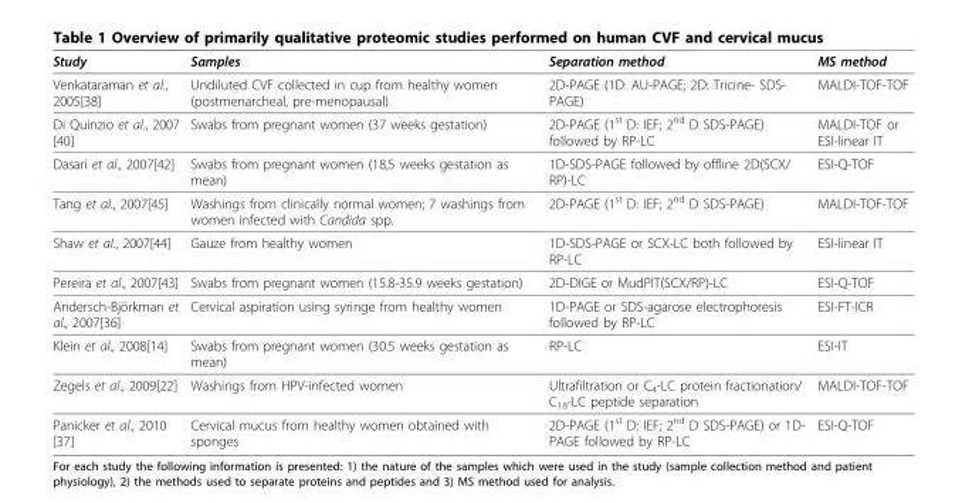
<table><thead><tr><td>Study</td><td>Samples</td><td>Separation method</td><td>MS method</td></tr></thead><tbody><tr><td>Venkataraman et al., 2005[38]</td><td>Undiluted CVF collected in cup from healthy women (postmenarcheal, pre-menopausal)</td><td>2D-PAGE (1D: AU-PAGE; 2D: Tricine- SDS- PAGE)</td><td>MALDI-TOF-TOF</td></tr><tr><td>Di Quinzio et al., 2007 [40]</td><td>Swabs from pregnant women (37 weeks gestation)</td><td>2D-PAGE (1<sup>st</sup> D: IEF; 2<sup>nd</sup> D SDS-PAGE) followed by RP-LC</td><td>MALDI-TOF or ESI-linear IT</td></tr><tr><td>Dasari et al., 2007[42]</td><td>Swabs from pregnant women (18,5 weeks gestation as mean)</td><td>1D-SDS-PAGE followed by offline 2D(SCX/ RP)-LC</td><td>ESI-Q-TOF</td></tr><tr><td>Tang et al., 2007[45]</td><td>Washings from clinically normal women; 7 washings from women infected with Candida spp.</td><td>2D-PAGE (1<sup>st</sup> D: IEF; 2<sup>nd</sup> D SDS-PAGE)</td><td>MALDI-TOF-TOF</td></tr><tr><td>Shaw et al., 2007[44]</td><td>Gauze from healthy women</td><td>1D-SDS-PAGE or SCX-LC both followed by RP-LC</td><td>ESI-linear IT</td></tr><tr><td>Pereira et al., 2007[43]</td><td>Swabs from pregnant women (15.8-35.9 weeks gestation)</td><td>2D-DIGE or MudPIT(SCX/RP)-LC</td><td>ESI-Q-TOF</td></tr><tr><td>Andersch-Björkman et al., 2007[36]</td><td>Cervical aspiration using syringe from healthy women</td><td>1D-PAGE or SDS-agarose electrophoresis followed by RP-LC</td><td>ESI-FT-ICR</td></tr><tr><td>Klein et al., 2008[14]</td><td>Swabs from pregnant women (30.5 weeks gestation as mean)</td><td>RP-LC</td><td>ESI-IT</td></tr><tr><td>Zegels et al., 2009[22]</td><td>Washings from HPV-infected women</td><td>Ultrafiltration or C<sub>4</sub>-LC protein fractionation/ C<sub>18</sub>-LC peptide separation</td><td>MALDI-TOF-TOF</td></tr><tr><td>Panicker et al., 2010 [37]</td><td>Cervical mucus from healthy women obtained with sponges</td><td>2D-PAGE (1<sup>st</sup> D: IEF; 2<sup>nd</sup> D SDS-PAGE) or 1D- PAGE followed by RP-LC</td><td>ESI-Q-TOF</td></tr></tbody></table>